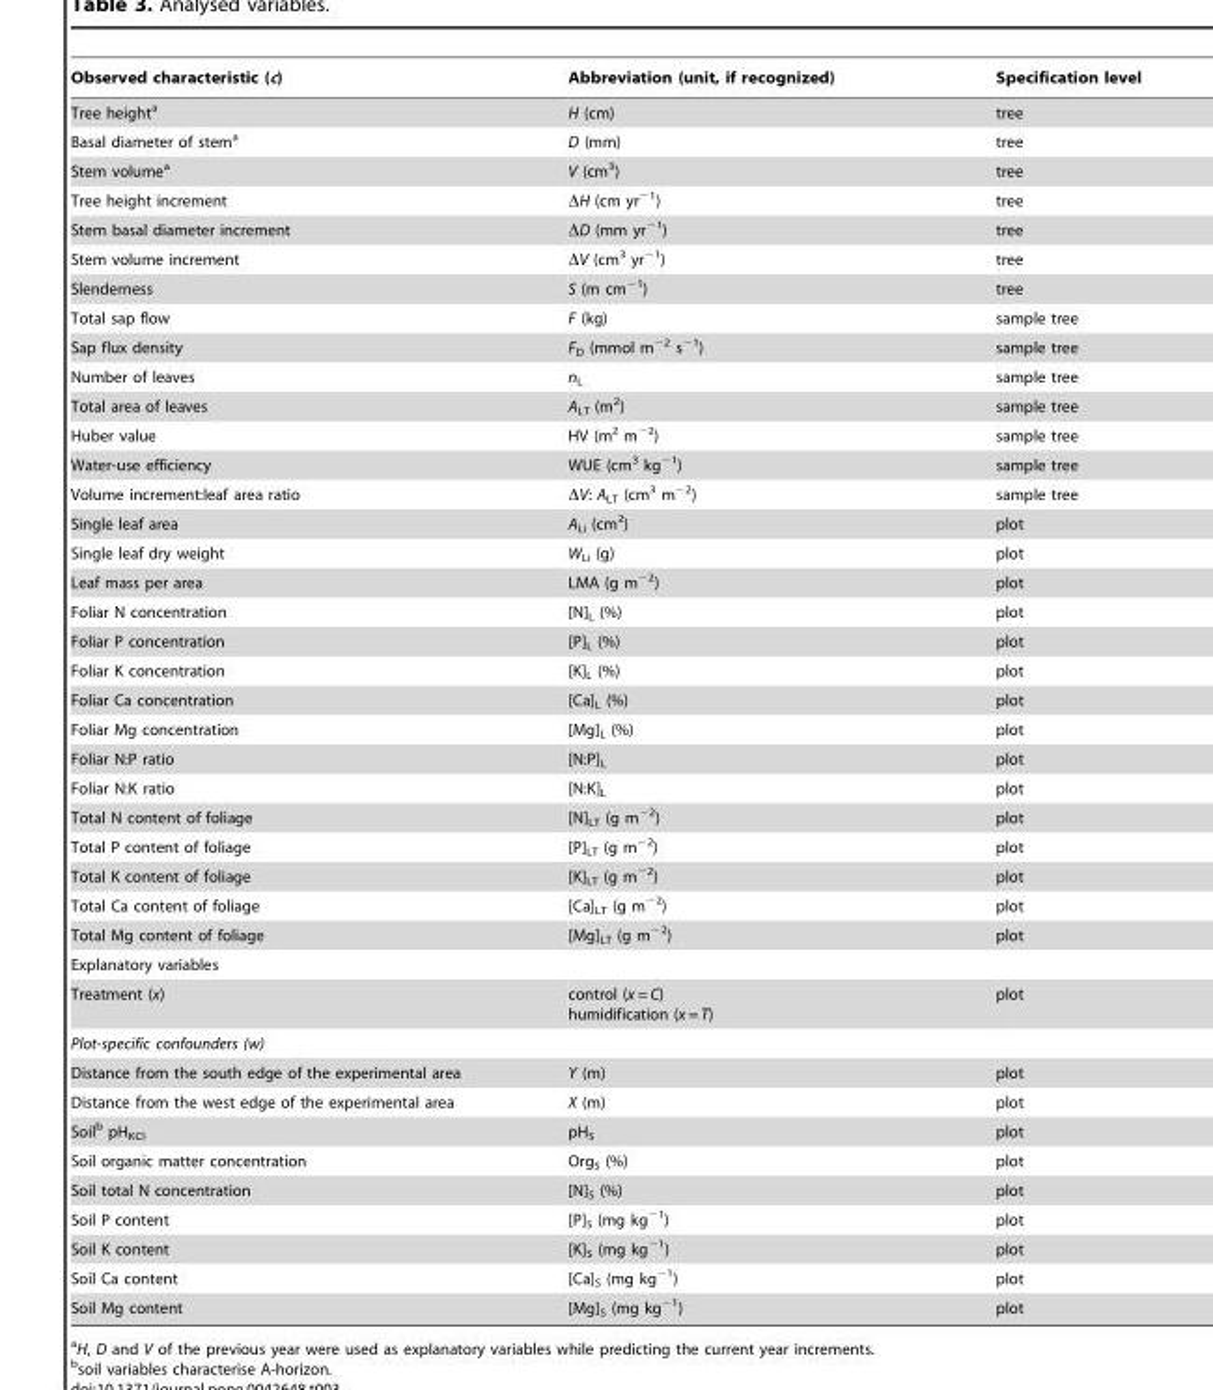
<table><thead><tr><td>Observed characteristic (c)</td><td>Abbreviation (unit, if recognized)</td><td>Specification level</td></tr></thead><tbody><tr><td>Tree height<sup>a</sup></td><td>H (cm)</td><td>tree</td></tr><tr><td>Basal diameter of stem<sup>a</sup></td><td>D (mm)</td><td>tree</td></tr><tr><td>Stem volume<sup>a</sup></td><td>V (cm<sup>3</sup>)</td><td>tree</td></tr><tr><td>Tree height increment</td><td>ΔH (cm yr<sup>−1</sup>)</td><td>tree</td></tr><tr><td>Stem basal diameter increment</td><td>ΔD (mm yr<sup>−1</sup>)</td><td>tree</td></tr><tr><td>Stem volume increment</td><td>ΔV (cm<sup>3</sup> yr<sup>−1</sup>)</td><td>tree</td></tr><tr><td>Slenderness</td><td>S (m cm<sup>−1</sup>)</td><td>tree</td></tr><tr><td>Total sap flow</td><td>F (kg)</td><td>sample tree</td></tr><tr><td>Sap flux density</td><td>F<sub>D</sub> (mmol m<sup>−2</sup> s<sup>−1</sup>)</td><td>sample tree</td></tr><tr><td>Number of leaves</td><td>n<sub>L</sub></td><td>sample tree</td></tr><tr><td>Total area of leaves</td><td>A<sub>LT</sub> (m<sup>2</sup>)</td><td>sample tree</td></tr><tr><td>Huber value</td><td>HV (m<sup>2</sup> m<sup>−2</sup>)</td><td>sample tree</td></tr><tr><td>Water-use efficiency</td><td>WUE (cm<sup>3</sup> kg<sup>−1</sup>)</td><td>sample tree</td></tr><tr><td>Volume increment:leaf area ratio</td><td>ΔV: A<sub>LT</sub> (cm<sup>3</sup> m<sup>−2</sup>)</td><td>sample tree</td></tr><tr><td>Single leaf area</td><td>A<sub>Li</sub> (cm<sup>2</sup>)</td><td>plot</td></tr><tr><td>Single leaf dry weight</td><td>W<sub>Li</sub> (g)</td><td>plot</td></tr><tr><td>Leaf mass per area</td><td>LMA (g m<sup>−2</sup>)</td><td>plot</td></tr><tr><td>Foliar N concentration</td><td>[N]<sub>L</sub> (%)</td><td>plot</td></tr><tr><td>Foliar P concentration</td><td>[P]<sub>L</sub> (%)</td><td>plot</td></tr><tr><td>Foliar K concentration</td><td>[K]<sub>L</sub> (%)</td><td>plot</td></tr><tr><td>Foliar Ca concentration</td><td>[Ca]<sub>L</sub> (%)</td><td>plot</td></tr><tr><td>Foliar Mg concentration</td><td>[Mg]<sub>L</sub> (%)</td><td>plot</td></tr><tr><td>Foliar N:P ratio</td><td>[N:P]<sub>L</sub></td><td>plot</td></tr><tr><td>Foliar N:K ratio</td><td>[N:K]<sub>L</sub></td><td>plot</td></tr><tr><td>Total N content of foliage</td><td>[N]<sub>LT</sub> (g m<sup>−2</sup>)</td><td>plot</td></tr><tr><td>Total P content of foliage</td><td>[P]<sub>LT</sub> (g m<sup>−2</sup>)</td><td>plot</td></tr><tr><td>Total K content of foliage</td><td>[K]<sub>LT</sub> (g m<sup>−2</sup>)</td><td>plot</td></tr><tr><td>Total Ca content of foliage</td><td>[Ca]<sub>LT</sub> (g m<sup>−2</sup>)</td><td>plot</td></tr><tr><td>Total Mg content of foliage</td><td>[Mg]<sub>LT</sub> (g m<sup>−2</sup>)</td><td>plot</td></tr><tr><td colspan="3">Explanatory variables</td></tr><tr><td>Treatment (x)</td><td>control (x = C) humidification (x = T)</td><td>plot</td></tr><tr><td colspan="3">Plot-specific confounders (w)</td></tr><tr><td>Distance from the south edge of the experimental area</td><td>Y (m)</td><td>plot</td></tr><tr><td>Distance from the west edge of the experimental area</td><td>X (m)</td><td>plot</td></tr><tr><td>Soil<sup>b</sup> pH<sub>KCl</sub></td><td>pH<sub>S</sub></td><td>plot</td></tr><tr><td>Soil organic matter concentration</td><td>Org<sub>S</sub> (%)</td><td>plot</td></tr><tr><td>Soil total N concentration</td><td>[N]<sub>S</sub> (%)</td><td>plot</td></tr><tr><td>Soil P content</td><td>[P]<sub>S</sub> (mg kg<sup>−1</sup>)</td><td>plot</td></tr><tr><td>Soil K content</td><td>[K]<sub>S</sub> (mg kg<sup>−1</sup>)</td><td>plot</td></tr><tr><td>Soil Ca content</td><td>[Ca]<sub>S</sub> (mg kg<sup>−1</sup>)</td><td>plot</td></tr><tr><td>Soil Mg content</td><td>[Mg]<sub>S</sub> (mg kg<sup>−1</sup>)</td><td>plot</td></tr></tbody></table>